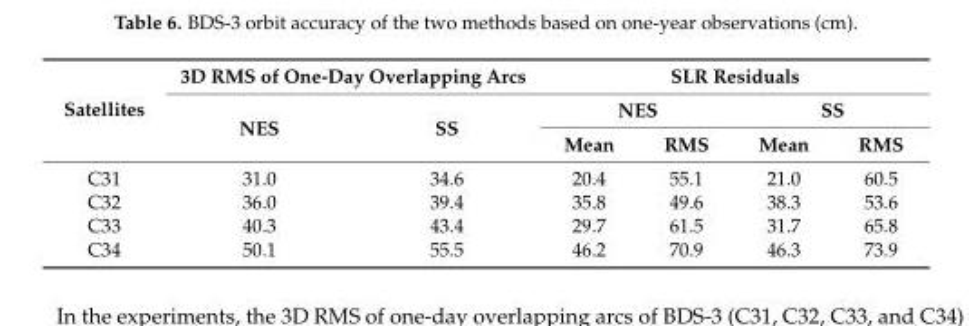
<table><thead><tr><td rowspan="3">Satellites</td><td colspan="2">3D RMS of One-Day Overlapping Arcs</td><td colspan="4">SLR Residuals</td></tr><tr><td rowspan="2">NES</td><td rowspan="2">SS</td><td colspan="2">NES</td><td colspan="2">SS</td></tr><tr><td>Mean</td><td>RMS</td><td>Mean</td><td>RMS</td></tr></thead><tbody><tr><td>C31</td><td>31.0</td><td>34.6</td><td>20.4</td><td>55.1</td><td>21.0</td><td>60.5</td></tr><tr><td>C32</td><td>36.0</td><td>39.4</td><td>35.8</td><td>49.6</td><td>38.3</td><td>53.6</td></tr><tr><td>C33</td><td>40.3</td><td>43.4</td><td>29.7</td><td>61.5</td><td>31.7</td><td>65.8</td></tr><tr><td>C34</td><td>50.1</td><td>55.5</td><td>46.2</td><td>70.9</td><td>46.3</td><td>73.9</td></tr></tbody></table>